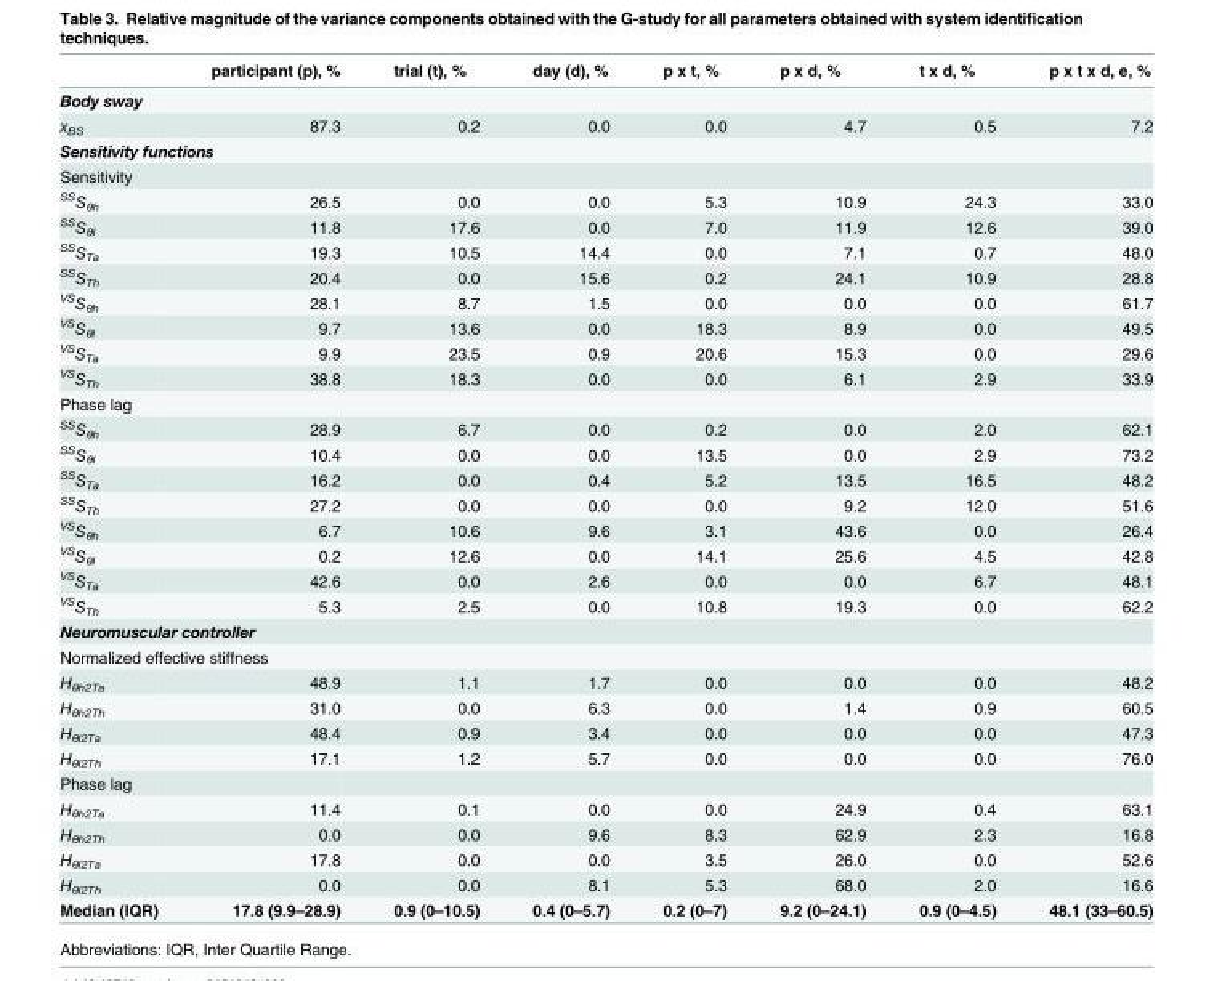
<table><thead><tr><td></td><td>participant (p), %</td><td>trial (t), %</td><td>day (d), %</td><td>p x t, %</td><td>p x d, %</td><td>t x d, %</td><td>p x t x d, e, %</td></tr></thead><tbody><tr><td colspan="8">Body sway</td></tr><tr><td>x<sub>BS</sub></td><td>87.3</td><td>0.2</td><td>0.0</td><td>0.0</td><td>4.7</td><td>0.5</td><td>7.2</td></tr><tr><td colspan="8">Sensitivity functions</td></tr><tr><td colspan="8">Sensitivity</td></tr><tr><td><sup>SS</sup>S<sub>θh</sub></td><td>26.5</td><td>0.0</td><td>0.0</td><td>5.3</td><td>10.9</td><td>24.3</td><td>33.0</td></tr><tr><td><sup>SS</sup>S<sub>θl</sub></td><td>11.8</td><td>17.6</td><td>0.0</td><td>7.0</td><td>11.9</td><td>12.6</td><td>39.0</td></tr><tr><td><sup>SS</sup>S<sub>Ta</sub></td><td>19.3</td><td>10.5</td><td>14.4</td><td>0.0</td><td>7.1</td><td>0.7</td><td>48.0</td></tr><tr><td><sup>SS</sup>S<sub>Th</sub></td><td>20.4</td><td>0.0</td><td>15.6</td><td>0.2</td><td>24.1</td><td>10.9</td><td>28.8</td></tr><tr><td><sup>VS</sup>S<sub>θh</sub></td><td>28.1</td><td>8.7</td><td>1.5</td><td>0.0</td><td>0.0</td><td>0.0</td><td>61.7</td></tr><tr><td><sup>VS</sup>S<sub>θl</sub></td><td>9.7</td><td>13.6</td><td>0.0</td><td>18.3</td><td>8.9</td><td>0.0</td><td>49.5</td></tr><tr><td><sup>VS</sup>S<sub>Ta</sub></td><td>9.9</td><td>23.5</td><td>0.9</td><td>20.6</td><td>15.3</td><td>0.0</td><td>29.6</td></tr><tr><td><sup>VS</sup>S<sub>Th</sub></td><td>38.8</td><td>18.3</td><td>0.0</td><td>0.0</td><td>6.1</td><td>2.9</td><td>33.9</td></tr><tr><td colspan="8">Phase lag</td></tr><tr><td><sup>SS</sup>S<sub>θh</sub></td><td>28.9</td><td>6.7</td><td>0.0</td><td>0.2</td><td>0.0</td><td>2.0</td><td>62.1</td></tr><tr><td><sup>SS</sup>S<sub>θl</sub></td><td>10.4</td><td>0.0</td><td>0.0</td><td>13.5</td><td>0.0</td><td>2.9</td><td>73.2</td></tr><tr><td><sup>SS</sup>S<sub>Ta</sub></td><td>16.2</td><td>0.0</td><td>0.4</td><td>5.2</td><td>13.5</td><td>16.5</td><td>48.2</td></tr><tr><td><sup>SS</sup>S<sub>Th</sub></td><td>27.2</td><td>0.0</td><td>0.0</td><td>0.0</td><td>9.2</td><td>12.0</td><td>51.6</td></tr><tr><td><sup>VS</sup>S<sub>θh</sub></td><td>6.7</td><td>10.6</td><td>9.6</td><td>3.1</td><td>43.6</td><td>0.0</td><td>26.4</td></tr><tr><td><sup>VS</sup>S<sub>θl</sub></td><td>0.2</td><td>12.6</td><td>0.0</td><td>14.1</td><td>25.6</td><td>4.5</td><td>42.8</td></tr><tr><td><sup>VS</sup>S<sub>Ta</sub></td><td>42.6</td><td>0.0</td><td>2.6</td><td>0.0</td><td>0.0</td><td>6.7</td><td>48.1</td></tr><tr><td><sup>VS</sup>S<sub>Th</sub></td><td>5.3</td><td>2.5</td><td>0.0</td><td>10.8</td><td>19.3</td><td>0.0</td><td>62.2</td></tr><tr><td colspan="8">Neuromuscular controller</td></tr><tr><td colspan="8">Normalized effective stiffness</td></tr><tr><td>H<sub>θh2Ta</sub></td><td>48.9</td><td>1.1</td><td>1.7</td><td>0.0</td><td>0.0</td><td>0.0</td><td>48.2</td></tr><tr><td>H<sub>θh2Th</sub></td><td>31.0</td><td>0.0</td><td>6.3</td><td>0.0</td><td>1.4</td><td>0.9</td><td>60.5</td></tr><tr><td>H<sub>θl2Ta</sub></td><td>48.4</td><td>0.9</td><td>3.4</td><td>0.0</td><td>0.0</td><td>0.0</td><td>47.3</td></tr><tr><td>H<sub>θl2Th</sub></td><td>17.1</td><td>1.2</td><td>5.7</td><td>0.0</td><td>0.0</td><td>0.0</td><td>76.0</td></tr><tr><td colspan="8">Phase lag</td></tr><tr><td>H<sub>θh2Ta</sub></td><td>11.4</td><td>0.1</td><td>0.0</td><td>0.0</td><td>24.9</td><td>0.4</td><td>63.1</td></tr><tr><td>H<sub>θh2Th</sub></td><td>0.0</td><td>0.0</td><td>9.6</td><td>8.3</td><td>62.9</td><td>2.3</td><td>16.8</td></tr><tr><td>H<sub>θl2Ta</sub></td><td>17.8</td><td>0.0</td><td>0.0</td><td>3.5</td><td>26.0</td><td>0.0</td><td>52.6</td></tr><tr><td>H<sub>θl2Th</sub></td><td>0.0</td><td>0.0</td><td>8.1</td><td>5.3</td><td>68.0</td><td>2.0</td><td>16.6</td></tr><tr><td>Median (IQR)</td><td>17.8 (9.9–28.9)</td><td>0.9 (0–10.5)</td><td>0.4 (0–5.7)</td><td>0.2 (0–7)</td><td>9.2 (0–24.1)</td><td>0.9 (0–4.5)</td><td>48.1 (33–60.5)</td></tr></tbody></table>